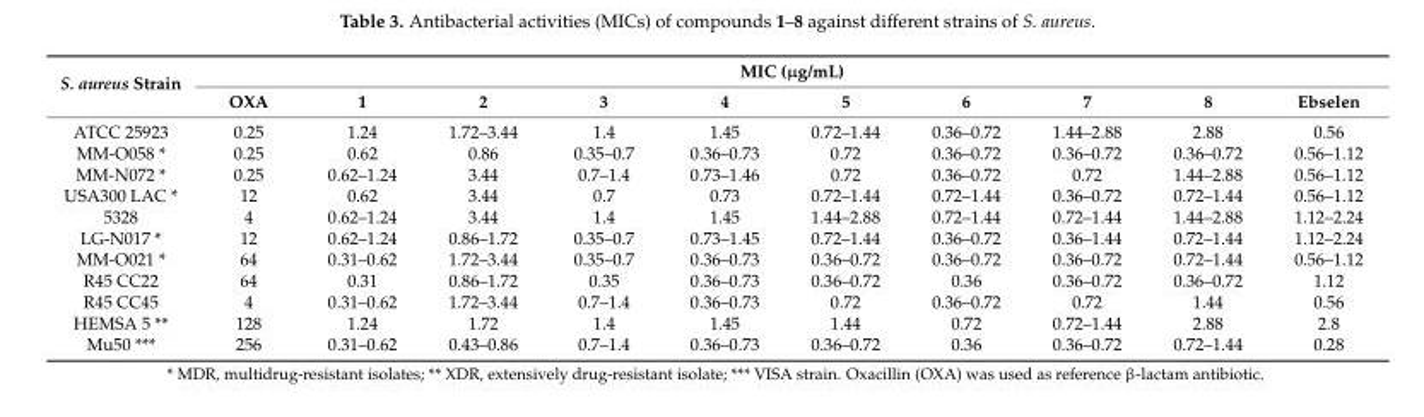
<table><thead><tr><td rowspan="2">S. aureus Strain</td><td colspan="10">MIC (µg/mL)</td></tr><tr><td>OXA</td><td>1</td><td>2</td><td>3</td><td>4</td><td>5</td><td>6</td><td>7</td><td>8</td><td>Ebselen</td></tr></thead><tbody><tr><td>ATCC 25923</td><td>0.25</td><td>1.24</td><td>1.72–3.44</td><td>1.4</td><td>1.45</td><td>0.72–1.44</td><td>0.36–0.72</td><td>1.44–2.88</td><td>2.88</td><td>0.56</td></tr><tr><td>MM-O058 *</td><td>0.25</td><td>0.62</td><td>0.86</td><td>0.35–0.7</td><td>0.36–0.73</td><td>0.72</td><td>0.36–0.72</td><td>0.36–0.72</td><td>0.36–0.72</td><td>0.56–1.12</td></tr><tr><td>MM-N072 *</td><td>0.25</td><td>0.62–1.24</td><td>3.44</td><td>0.7–1.4</td><td>0.73–1.46</td><td>0.72</td><td>0.36–0.72</td><td>0.72</td><td>1.44–2.88</td><td>0.56–1.12</td></tr><tr><td>USA300 LAC *</td><td>12</td><td>0.62</td><td>3.44</td><td>0.7</td><td>0.73</td><td>0.72–1.44</td><td>0.72–1.44</td><td>0.36–0.72</td><td>0.72–1.44</td><td>0.56–1.12</td></tr><tr><td>5328</td><td>4</td><td>0.62–1.24</td><td>3.44</td><td>1.4</td><td>1.45</td><td>1.44–2.88</td><td>0.72–1.44</td><td>0.72–1.44</td><td>1.44–2.88</td><td>1.12–2.24</td></tr><tr><td>LG-N017 *</td><td>12</td><td>0.62–1.24</td><td>0.86–1.72</td><td>0.35–0.7</td><td>0.73–1.45</td><td>0.72–1.44</td><td>0.36–0.72</td><td>0.36–1.44</td><td>0.72–1.44</td><td>1.12–2.24</td></tr><tr><td>MM-O021 *</td><td>64</td><td>0.31–0.62</td><td>1.72–3.44</td><td>0.35–0.7</td><td>0.36–0.73</td><td>0.36–0.72</td><td>0.36–0.72</td><td>0.36–0.72</td><td>0.72–1.44</td><td>0.56–1.12</td></tr><tr><td>R45 CC22</td><td>64</td><td>0.31</td><td>0.86–1.72</td><td>0.35</td><td>0.36–0.73</td><td>0.36–0.72</td><td>0.36</td><td>0.36–0.72</td><td>0.36–0.72</td><td>1.12</td></tr><tr><td>R45 CC45</td><td>4</td><td>0.31–0.62</td><td>1.72–3.44</td><td>0.7–1.4</td><td>0.36–0.73</td><td>0.72</td><td>0.36–0.72</td><td>0.72</td><td>1.44</td><td>0.56</td></tr><tr><td>HEMSA 5 **</td><td>128</td><td>1.24</td><td>1.72</td><td>1.4</td><td>1.45</td><td>1.44</td><td>0.72</td><td>0.72–1.44</td><td>2.88</td><td>2.8</td></tr><tr><td>Mu50 ***</td><td>256</td><td>0.31–0.62</td><td>0.43–0.86</td><td>0.7–1.4</td><td>0.36–0.73</td><td>0.36–0.72</td><td>0.36</td><td>0.36–0.72</td><td>0.72–1.44</td><td>0.28</td></tr></tbody></table>